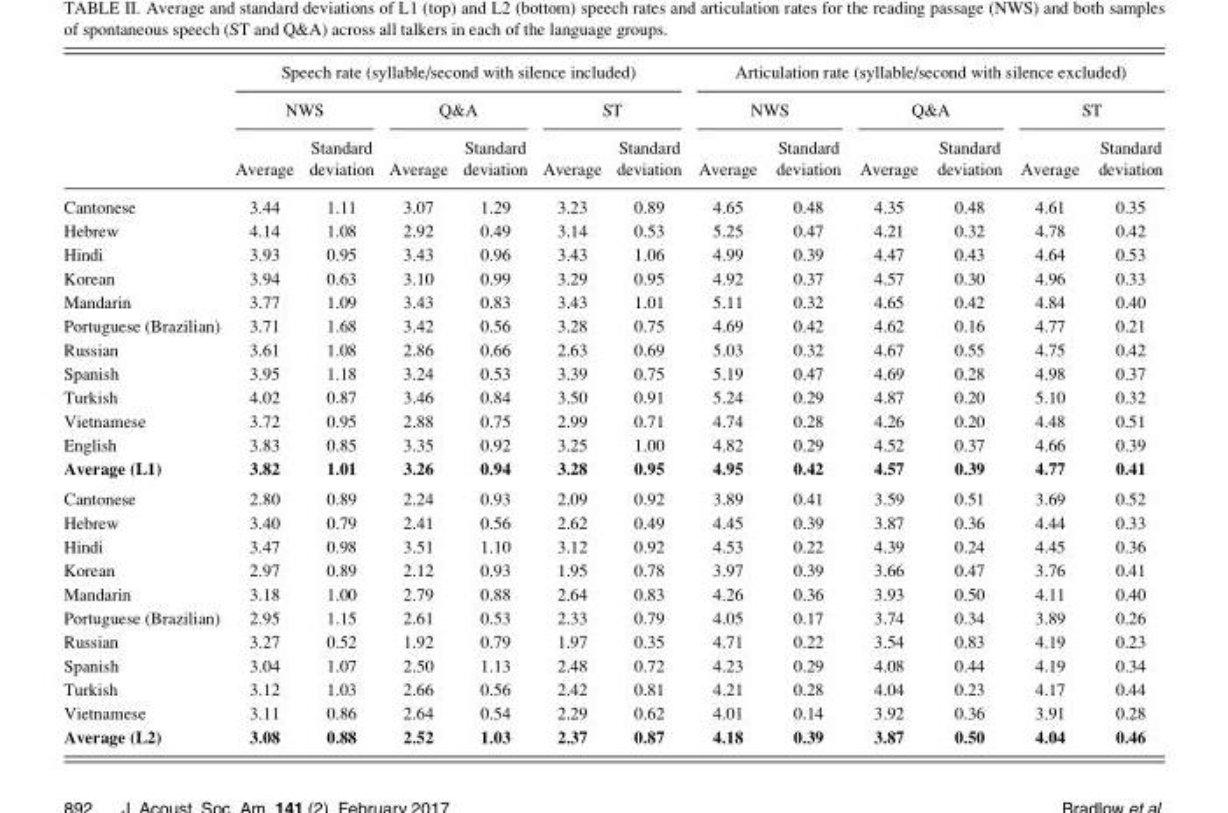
<table><thead><tr><td rowspan="3"></td><td colspan="6">Speech rate (syllable/second with silence included)</td><td colspan="6">Articulation rate (syllable/second with silence excluded)</td></tr><tr><td colspan="2">NWS</td><td colspan="2">Q&amp;A</td><td colspan="2">ST</td><td colspan="2">NWS</td><td colspan="2">Q&amp;A</td><td colspan="2">ST</td></tr><tr><td>Average</td><td>Standard deviation</td><td>Average</td><td>Standard deviation</td><td>Average</td><td>Standard deviation</td><td>Average</td><td>Standard deviation</td><td>Average</td><td>Standard deviation</td><td>Average</td><td>Standard deviation</td></tr></thead><tbody><tr><td>Cantonese</td><td>3.44</td><td>1.11</td><td>3.07</td><td>1.29</td><td>3.23</td><td>0.89</td><td>4.65</td><td>0.48</td><td>4.35</td><td>0.48</td><td>4.61</td><td>0.35</td></tr><tr><td>Hebrew</td><td>4.14</td><td>1.08</td><td>2.92</td><td>0.49</td><td>3.14</td><td>0.53</td><td>5.25</td><td>0.47</td><td>4.21</td><td>0.32</td><td>4.78</td><td>0.42</td></tr><tr><td>Hindi</td><td>3.93</td><td>0.95</td><td>3.43</td><td>0.96</td><td>3.43</td><td>1.06</td><td>4.99</td><td>0.39</td><td>4.47</td><td>0.43</td><td>4.64</td><td>0.53</td></tr><tr><td>Korean</td><td>3.94</td><td>0.63</td><td>3.10</td><td>0.99</td><td>3.29</td><td>0.95</td><td>4.92</td><td>0.37</td><td>4.57</td><td>0.30</td><td>4.96</td><td>0.33</td></tr><tr><td>Mandarin</td><td>3.77</td><td>1.09</td><td>3.43</td><td>0.83</td><td>3.43</td><td>1.01</td><td>5.11</td><td>0.32</td><td>4.65</td><td>0.42</td><td>4.84</td><td>0.40</td></tr><tr><td>Portuguese (Brazilian)</td><td>3.71</td><td>1.68</td><td>3.42</td><td>0.56</td><td>3.28</td><td>0.75</td><td>4.69</td><td>0.42</td><td>4.62</td><td>0.16</td><td>4.77</td><td>0.21</td></tr><tr><td>Russian</td><td>3.61</td><td>1.08</td><td>2.86</td><td>0.66</td><td>2.63</td><td>0.69</td><td>5.03</td><td>0.32</td><td>4.67</td><td>0.55</td><td>4.75</td><td>0.42</td></tr><tr><td>Spanish</td><td>3.95</td><td>1.18</td><td>3.24</td><td>0.53</td><td>3.39</td><td>0.75</td><td>5.19</td><td>0.47</td><td>4.69</td><td>0.28</td><td>4.98</td><td>0.37</td></tr><tr><td>Turkish</td><td>4.02</td><td>0.87</td><td>3.46</td><td>0.84</td><td>3.50</td><td>0.91</td><td>5.24</td><td>0.29</td><td>4.87</td><td>0.20</td><td>5.10</td><td>0.32</td></tr><tr><td>Vietnamese</td><td>3.72</td><td>0.95</td><td>2.88</td><td>0.75</td><td>2.99</td><td>0.71</td><td>4.74</td><td>0.28</td><td>4.26</td><td>0.20</td><td>4.48</td><td>0.51</td></tr><tr><td>English</td><td>3.83</td><td>0.85</td><td>3.35</td><td>0.92</td><td>3.25</td><td>1.00</td><td>4.82</td><td>0.29</td><td>4.52</td><td>0.37</td><td>4.66</td><td>0.39</td></tr><tr><td>Average (L1)</td><td>3.82</td><td>1.01</td><td>3.26</td><td>0.94</td><td>3.28</td><td>0.95</td><td>4.95</td><td>0.42</td><td>4.57</td><td>0.39</td><td>4.77</td><td>0.41</td></tr><tr><td>Cantonese</td><td>2.80</td><td>0.89</td><td>2.24</td><td>0.93</td><td>2.09</td><td>0.92</td><td>3.89</td><td>0.41</td><td>3.59</td><td>0.51</td><td>3.69</td><td>0.52</td></tr><tr><td>Hebrew</td><td>3.40</td><td>0.79</td><td>2.41</td><td>0.56</td><td>2.62</td><td>0.49</td><td>4.45</td><td>0.39</td><td>3.87</td><td>0.36</td><td>4.44</td><td>0.33</td></tr><tr><td>Hindi</td><td>3.47</td><td>0.98</td><td>3.51</td><td>1.10</td><td>3.12</td><td>0.92</td><td>4.53</td><td>0.22</td><td>4.39</td><td>0.24</td><td>4.45</td><td>0.36</td></tr><tr><td>Korean</td><td>2.97</td><td>0.89</td><td>2.12</td><td>0.93</td><td>1.95</td><td>0.78</td><td>3.97</td><td>0.39</td><td>3.66</td><td>0.47</td><td>3.76</td><td>0.41</td></tr><tr><td>Mandarin</td><td>3.18</td><td>1.00</td><td>2.79</td><td>0.88</td><td>2.64</td><td>0.83</td><td>4.26</td><td>0.36</td><td>3.93</td><td>0.50</td><td>4.11</td><td>0.40</td></tr><tr><td>Portuguese (Brazilian)</td><td>2.95</td><td>1.15</td><td>2.61</td><td>0.53</td><td>2.33</td><td>0.79</td><td>4.05</td><td>0.17</td><td>3.74</td><td>0.34</td><td>3.89</td><td>0.26</td></tr><tr><td>Russian</td><td>3.27</td><td>0.52</td><td>1.92</td><td>0.79</td><td>1.97</td><td>0.35</td><td>4.71</td><td>0.22</td><td>3.54</td><td>0.83</td><td>4.19</td><td>0.23</td></tr><tr><td>Spanish</td><td>3.04</td><td>1.07</td><td>2.50</td><td>1.13</td><td>2.48</td><td>0.72</td><td>4.23</td><td>0.29</td><td>4.08</td><td>0.44</td><td>4.19</td><td>0.34</td></tr><tr><td>Turkish</td><td>3.12</td><td>1.03</td><td>2.66</td><td>0.56</td><td>2.42</td><td>0.81</td><td>4.21</td><td>0.28</td><td>4.04</td><td>0.23</td><td>4.17</td><td>0.44</td></tr><tr><td>Vietnamese</td><td>3.11</td><td>0.86</td><td>2.64</td><td>0.54</td><td>2.29</td><td>0.62</td><td>4.01</td><td>0.14</td><td>3.92</td><td>0.36</td><td>3.91</td><td>0.28</td></tr><tr><td>Average (L2)</td><td>3.08</td><td>0.88</td><td>2.52</td><td>1.03</td><td>2.37</td><td>0.87</td><td>4.18</td><td>0.39</td><td>3.87</td><td>0.50</td><td>4.04</td><td>0.46</td></tr></tbody></table>